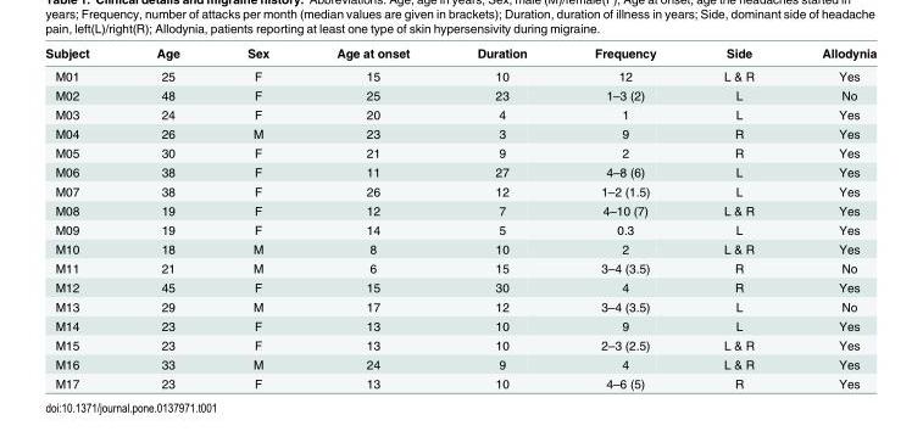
<table><thead><tr><td>Subject</td><td>Age</td><td>Sex</td><td>Age at onset</td><td>Duration</td><td>Frequency</td><td>Side</td><td>Allodynia</td></tr></thead><tbody><tr><td>M01</td><td>25</td><td>F</td><td>15</td><td>10</td><td>12</td><td>L &amp; R</td><td>Yes</td></tr><tr><td>M02</td><td>48</td><td>F</td><td>25</td><td>23</td><td>1–3 (2)</td><td>L</td><td>No</td></tr><tr><td>M03</td><td>24</td><td>F</td><td>20</td><td>4</td><td>1</td><td>L</td><td>Yes</td></tr><tr><td>M04</td><td>26</td><td>M</td><td>23</td><td>3</td><td>9</td><td>R</td><td>Yes</td></tr><tr><td>M05</td><td>30</td><td>F</td><td>21</td><td>9</td><td>2</td><td>R</td><td>Yes</td></tr><tr><td>M06</td><td>38</td><td>F</td><td>11</td><td>27</td><td>4–8 (6)</td><td>L</td><td>Yes</td></tr><tr><td>M07</td><td>38</td><td>F</td><td>26</td><td>12</td><td>1–2 (1.5)</td><td>L</td><td>Yes</td></tr><tr><td>M08</td><td>19</td><td>F</td><td>12</td><td>7</td><td>4–10 (7)</td><td>L &amp; R</td><td>Yes</td></tr><tr><td>M09</td><td>19</td><td>F</td><td>14</td><td>5</td><td>0.3</td><td>L</td><td>Yes</td></tr><tr><td>M10</td><td>18</td><td>M</td><td>8</td><td>10</td><td>2</td><td>L &amp; R</td><td>Yes</td></tr><tr><td>M11</td><td>21</td><td>M</td><td>6</td><td>15</td><td>3–4 (3.5)</td><td>R</td><td>No</td></tr><tr><td>M12</td><td>45</td><td>F</td><td>15</td><td>30</td><td>4</td><td>R</td><td>Yes</td></tr><tr><td>M13</td><td>29</td><td>M</td><td>17</td><td>12</td><td>3–4 (3.5)</td><td>L</td><td>No</td></tr><tr><td>M14</td><td>23</td><td>F</td><td>13</td><td>10</td><td>9</td><td>L</td><td>Yes</td></tr><tr><td>M15</td><td>23</td><td>F</td><td>13</td><td>10</td><td>2–3 (2.5)</td><td>L &amp; R</td><td>Yes</td></tr><tr><td>M16</td><td>33</td><td>M</td><td>24</td><td>9</td><td>4</td><td>L &amp; R</td><td>Yes</td></tr><tr><td>M17</td><td>23</td><td>F</td><td>13</td><td>10</td><td>4–6 (5)</td><td>R</td><td>Yes</td></tr></tbody></table>